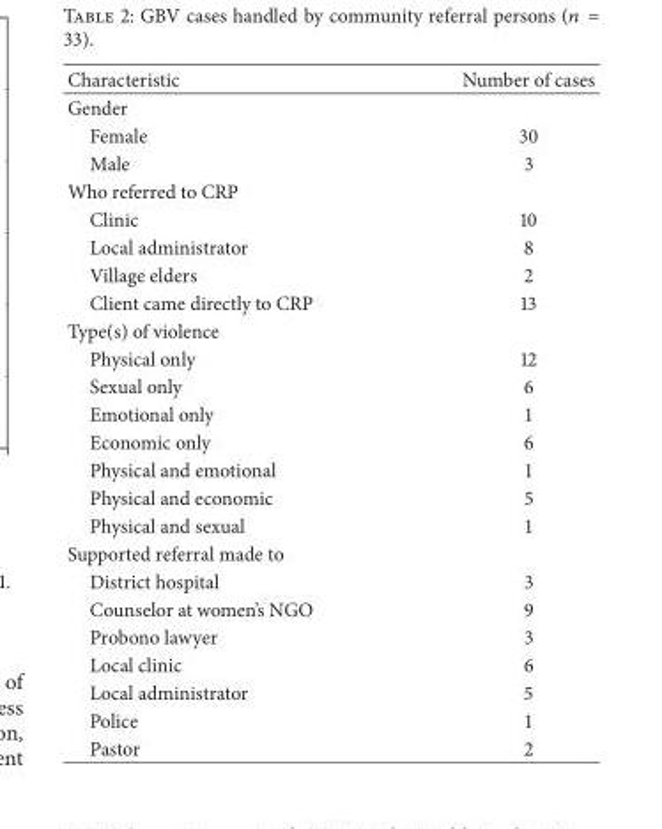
<table><thead><tr><td>Characteristic</td><td>Number of cases</td></tr></thead><tbody><tr><td colspan="2">Gender</td></tr><tr><td>Female</td><td>30</td></tr><tr><td>Male</td><td>3</td></tr><tr><td colspan="2">Who referred to CRP</td></tr><tr><td>Clinic</td><td>10</td></tr><tr><td>Local administrator</td><td>8</td></tr><tr><td>Village elders</td><td>2</td></tr><tr><td>Client came directly to CRP</td><td>13</td></tr><tr><td colspan="2">Type(s) of violence</td></tr><tr><td>Physical only</td><td>12</td></tr><tr><td>Sexual only</td><td>6</td></tr><tr><td>Emotional only</td><td>1</td></tr><tr><td>Economic only</td><td>6</td></tr><tr><td>Physical and emotional</td><td>1</td></tr><tr><td>Physical and economic</td><td>5</td></tr><tr><td>Physical and sexual</td><td>1</td></tr><tr><td colspan="2">Supported referral made to</td></tr><tr><td>District hospital</td><td>3</td></tr><tr><td>Counselor at women’s NGO</td><td>9</td></tr><tr><td>Probono lawyer</td><td>3</td></tr><tr><td>Local clinic</td><td>6</td></tr><tr><td>Local administrator</td><td>5</td></tr><tr><td>Police</td><td>1</td></tr><tr><td>Pastor</td><td>2</td></tr></tbody></table>